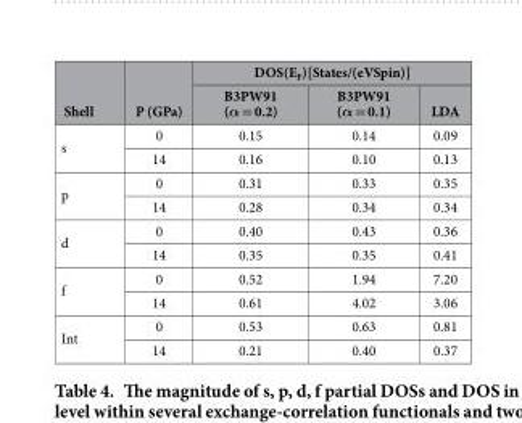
<table><thead><tr><td rowspan="2">Shell</td><td rowspan="2">P (GPa)</td><td colspan="3">DOS(E<sub>F</sub>)[States/(eVSpin)]</td></tr><tr><td>B3PW91 (α = 0.2)</td><td>B3PW91 (α = 0.1)</td><td>LDA</td></tr></thead><tbody><tr><td rowspan="2">s</td><td>0</td><td>0.15</td><td>0.14</td><td>0.09</td></tr><tr><td>14</td><td>0.16</td><td>0.10</td><td>0.13</td></tr><tr><td rowspan="2">p</td><td>0</td><td>0.31</td><td>0.33</td><td>0.35</td></tr><tr><td>14</td><td>0.28</td><td>0.34</td><td>0.34</td></tr><tr><td rowspan="2">d</td><td>0</td><td>0.40</td><td>0.43</td><td>0.36</td></tr><tr><td>14</td><td>0.35</td><td>0.35</td><td>0.41</td></tr><tr><td rowspan="2">f</td><td>0</td><td>0.52</td><td>1.94</td><td>7.20</td></tr><tr><td>14</td><td>0.61</td><td>4.02</td><td>3.06</td></tr><tr><td rowspan="2">Int</td><td>0</td><td>0.53</td><td>0.63</td><td>0.81</td></tr><tr><td>14</td><td>0.21</td><td>0.40</td><td>0.37</td></tr></tbody></table>